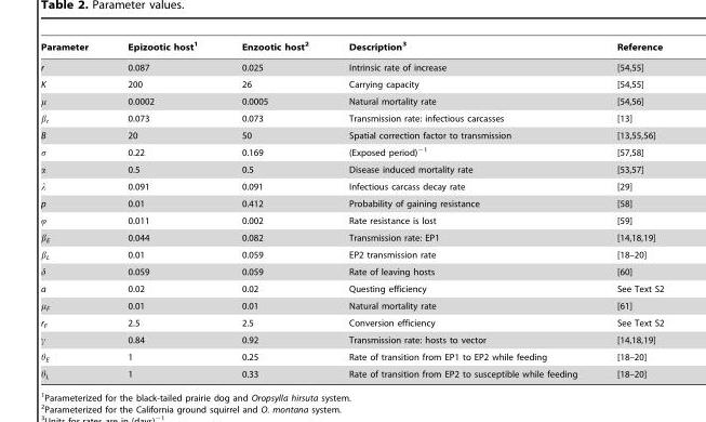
<table><thead><tr><td>Parameter</td><td>Epizootic host<sup>1</sup></td><td>Enzootic host<sup>2</sup></td><td>Description<sup>3</sup></td><td>Reference</td></tr></thead><tbody><tr><td>r</td><td>0.087</td><td>0.025</td><td>Intrinsic rate of increase</td><td>[54,55]</td></tr><tr><td>K</td><td>200</td><td>26</td><td>Carrying capacity</td><td>[54,55]</td></tr><tr><td>μ</td><td>0.0002</td><td>0.0005</td><td>Natural mortality rate</td><td>[54,56]</td></tr><tr><td>β<sub>r</sub></td><td>0.073</td><td>0.073</td><td>Transmission rate: infectious carcasses</td><td>[13]</td></tr><tr><td>B</td><td>20</td><td>50</td><td>Spatial correction factor to transmission</td><td>[13,55,56]</td></tr><tr><td>σ</td><td>0.22</td><td>0.169</td><td>(Exposed period)<sup>−1</sup></td><td>[57,58]</td></tr><tr><td>α</td><td>0.5</td><td>0.5</td><td>Disease induced mortality rate</td><td>[53,57]</td></tr><tr><td>λ</td><td>0.091</td><td>0.091</td><td>Infectious carcass decay rate</td><td>[29]</td></tr><tr><td>p</td><td>0.01</td><td>0.412</td><td>Probability of gaining resistance</td><td>[58]</td></tr><tr><td>ϕ</td><td>0.011</td><td>0.002</td><td>Rate resistance is lost</td><td>[59]</td></tr><tr><td>β<sub>E</sub></td><td>0.044</td><td>0.082</td><td>Transmission rate: EP1</td><td>[14,18,19]</td></tr><tr><td>β<sub>L</sub></td><td>0.01</td><td>0.059</td><td>EP2 transmission rate</td><td>[18–20]</td></tr><tr><td>δ</td><td>0.059</td><td>0.059</td><td>Rate of leaving hosts</td><td>[60]</td></tr><tr><td>a</td><td>0.02</td><td>0.02</td><td>Questing efficiency</td><td>See Text S2</td></tr><tr><td>μ<sub>F</sub></td><td>0.01</td><td>0.01</td><td>Natural mortality rate</td><td>[61]</td></tr><tr><td>r<sub>F</sub></td><td>2.5</td><td>2.5</td><td>Conversion efficiency</td><td>See Text S2</td></tr><tr><td>γ</td><td>0.84</td><td>0.92</td><td>Transmission rate: hosts to vector</td><td>[14,18,19]</td></tr><tr><td>θ<sub>E</sub></td><td>1</td><td>0.25</td><td>Rate of transition from EP1 to EP2 while feeding</td><td>[18–20]</td></tr><tr><td>θ<sub>L</sub></td><td>1</td><td>0.33</td><td>Rate of transition from EP2 to susceptible while feeding</td><td>[18–20]</td></tr></tbody></table>